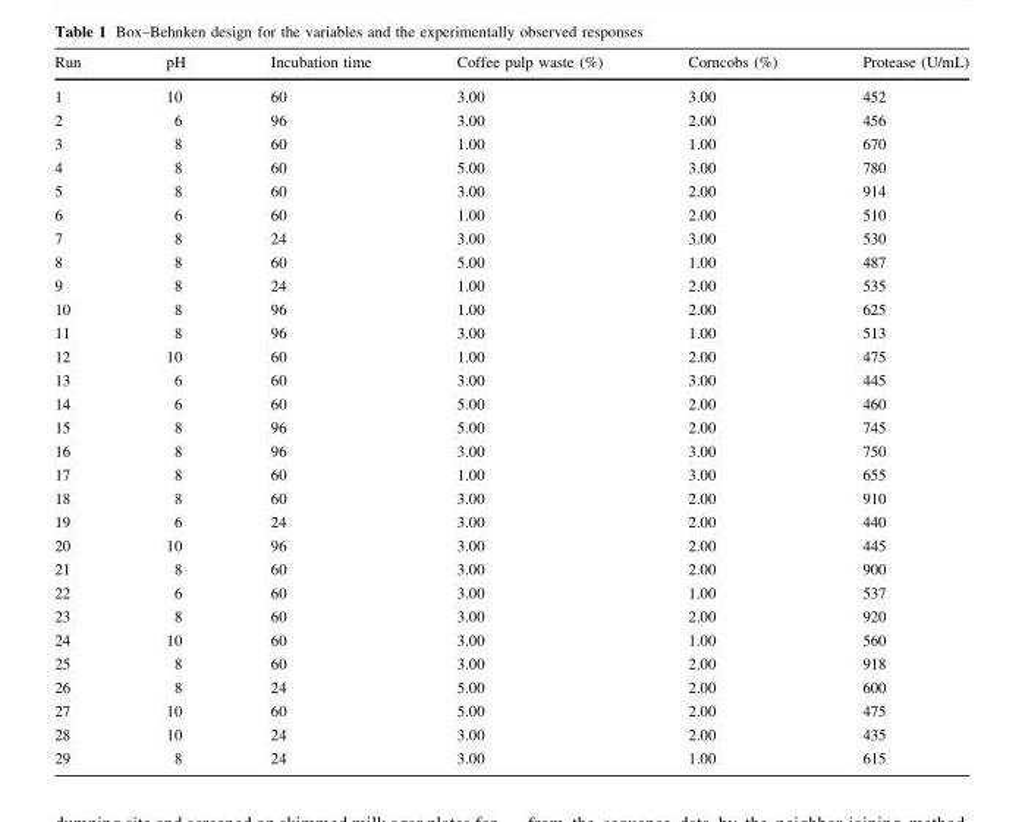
<table><thead><tr><td>Run</td><td>pH</td><td>Incubation time</td><td>Coffee pulp waste (%)</td><td>Corncobs (%)</td><td>Protease (U/mL)</td></tr></thead><tbody><tr><td>1</td><td>10</td><td>60</td><td>3.00</td><td>3.00</td><td>452</td></tr><tr><td>2</td><td>6</td><td>96</td><td>3.00</td><td>2.00</td><td>456</td></tr><tr><td>3</td><td>8</td><td>60</td><td>1.00</td><td>1.00</td><td>670</td></tr><tr><td>4</td><td>8</td><td>60</td><td>5.00</td><td>3.00</td><td>780</td></tr><tr><td>5</td><td>8</td><td>60</td><td>3.00</td><td>2.00</td><td>914</td></tr><tr><td>6</td><td>6</td><td>60</td><td>1.00</td><td>2.00</td><td>510</td></tr><tr><td>7</td><td>8</td><td>24</td><td>3.00</td><td>3.00</td><td>530</td></tr><tr><td>8</td><td>8</td><td>60</td><td>5.00</td><td>1.00</td><td>487</td></tr><tr><td>9</td><td>8</td><td>24</td><td>1.00</td><td>2.00</td><td>535</td></tr><tr><td>10</td><td>8</td><td>96</td><td>1.00</td><td>2.00</td><td>625</td></tr><tr><td>11</td><td>8</td><td>96</td><td>3.00</td><td>1.00</td><td>513</td></tr><tr><td>12</td><td>10</td><td>60</td><td>1.00</td><td>2.00</td><td>475</td></tr><tr><td>13</td><td>6</td><td>60</td><td>3.00</td><td>3.00</td><td>445</td></tr><tr><td>14</td><td>6</td><td>60</td><td>5.00</td><td>2.00</td><td>460</td></tr><tr><td>15</td><td>8</td><td>96</td><td>5.00</td><td>2.00</td><td>745</td></tr><tr><td>16</td><td>8</td><td>96</td><td>3.00</td><td>3.00</td><td>750</td></tr><tr><td>17</td><td>8</td><td>60</td><td>1.00</td><td>3.00</td><td>655</td></tr><tr><td>18</td><td>8</td><td>60</td><td>3.00</td><td>2.00</td><td>910</td></tr><tr><td>19</td><td>6</td><td>24</td><td>3.00</td><td>2.00</td><td>440</td></tr><tr><td>20</td><td>10</td><td>96</td><td>3.00</td><td>2.00</td><td>445</td></tr><tr><td>21</td><td>8</td><td>60</td><td>3.00</td><td>2.00</td><td>900</td></tr><tr><td>22</td><td>6</td><td>60</td><td>3.00</td><td>1.00</td><td>537</td></tr><tr><td>23</td><td>8</td><td>60</td><td>3.00</td><td>2.00</td><td>920</td></tr><tr><td>24</td><td>10</td><td>60</td><td>3.00</td><td>1.00</td><td>560</td></tr><tr><td>25</td><td>8</td><td>60</td><td>3.00</td><td>2.00</td><td>918</td></tr><tr><td>26</td><td>8</td><td>24</td><td>5.00</td><td>2.00</td><td>600</td></tr><tr><td>27</td><td>10</td><td>60</td><td>5.00</td><td>2.00</td><td>475</td></tr><tr><td>28</td><td>10</td><td>24</td><td>3.00</td><td>2.00</td><td>435</td></tr><tr><td>29</td><td>8</td><td>24</td><td>3.00</td><td>1.00</td><td>615</td></tr></tbody></table>